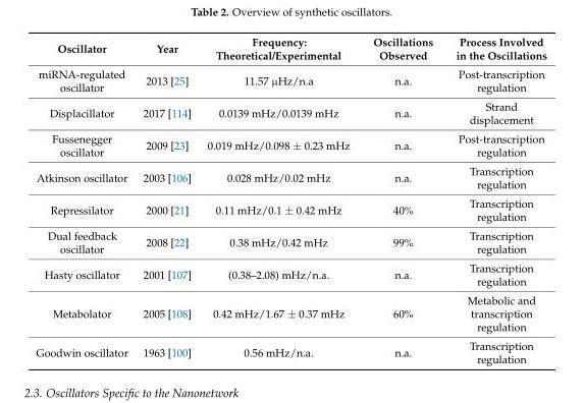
<table><thead><tr><td>Oscillator</td><td>Year</td><td>Frequency: Theoretical/Experimental</td><td>Oscillations Observed</td><td>Process Involved in the Oscillations</td></tr></thead><tbody><tr><td>miRNA-regulated oscillator</td><td>2013 [25]</td><td>11.57 µHz/n.a</td><td>n.a.</td><td>Post-transcription regulation</td></tr><tr><td>Displacillator</td><td>2017 [114]</td><td>0.0139 mHz/0.0139 mHz</td><td>n.a.</td><td>Strand displacement</td></tr><tr><td>Fussenegger oscillator</td><td>2009 [23]</td><td>0.019 mHz/0.098 ± 0.23 mHz</td><td>n.a.</td><td>Post-transcription regulation</td></tr><tr><td>Atkinson oscillator</td><td>2003 [106]</td><td>0.028 mHz/0.02 mHz</td><td>n.a.</td><td>Transcription regulation</td></tr><tr><td>Repressilator</td><td>2000 [21]</td><td>0.11 mHz/0.1 ± 0.42 mHz</td><td>40%</td><td>Transcription regulation</td></tr><tr><td>Dual feedback oscillator</td><td>2008 [22]</td><td>0.38 mHz/0.42 mHz</td><td>99%</td><td>Transcription regulation</td></tr><tr><td>Hasty oscillator</td><td>2001 [107]</td><td>(0.38–2.08) mHz/n.a.</td><td>n.a.</td><td>Transcription regulation</td></tr><tr><td>Metabolator</td><td>2005 [108]</td><td>0.42 mHz/1.67 ± 0.37 mHz</td><td>60%</td><td>Metabolic and transcription regulation</td></tr><tr><td>Goodwin oscillator</td><td>1963 [100]</td><td>0.56 mHz/n.a.</td><td>n.a.</td><td>Transcription regulation</td></tr></tbody></table>